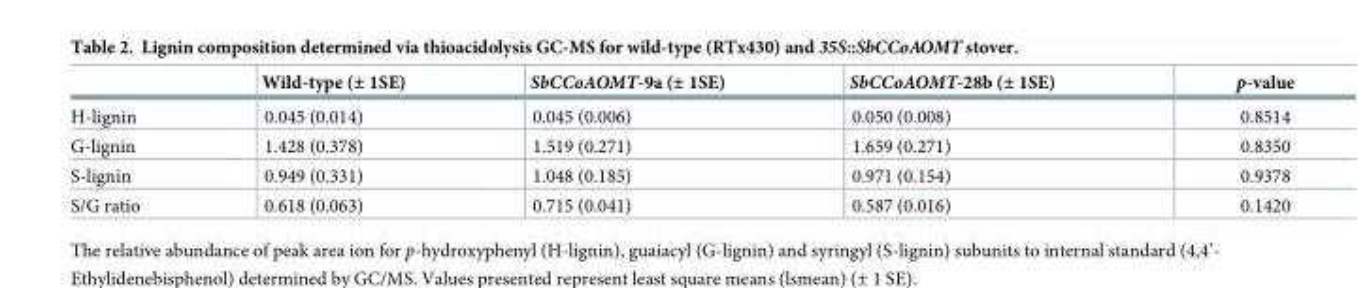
<table><thead><tr><td></td><td>Wild-type (± 1SE)</td><td>SbCCoAOMT-9a (± 1SE)</td><td>SbCCoAOMT-28b (± 1SE)</td><td>p-value</td></tr></thead><tbody><tr><td>H-lignin</td><td>0.045 (0.014)</td><td>0.045 (0.006)</td><td>0.050 (0.008)</td><td>0.8514</td></tr><tr><td>G-lignin</td><td>1.428 (0.378)</td><td>1.519 (0.271)</td><td>1.659 (0.271)</td><td>0.8350</td></tr><tr><td>S-lignin</td><td>0.949 (0.331)</td><td>1.048 (0.185)</td><td>0.971 (0.154)</td><td>0.9378</td></tr><tr><td>S/G ratio</td><td>0.618 (0.063)</td><td>0.715 (0.041)</td><td>0.587 (0.016)</td><td>0.1420</td></tr></tbody></table>